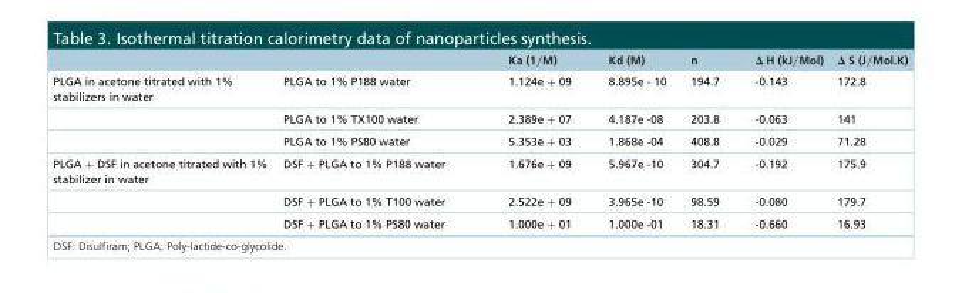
<table><thead><tr><td></td><td></td><td>Ka (1/M)</td><td>Kd (M)</td><td>n</td><td>Δ H (kJ/Mol)</td><td>Δ S (J/Mol.K)</td></tr></thead><tbody><tr><td rowspan="3">PLGA in acetone titrated with 1% stabilizers in water</td><td>PLGA to 1% P188 water</td><td>1.124e + 09</td><td>8.895e - 10</td><td>194.7</td><td>-0.143</td><td>172.8</td></tr><tr><td>PLGA to 1% TX100 water</td><td>2.389e + 07</td><td>4.187e -08</td><td>203.8</td><td>-0.063</td><td>141</td></tr><tr><td>PLGA to 1% PS80 water</td><td>5.353e + 03</td><td>1.868e -04</td><td>408.8</td><td>-0.029</td><td>71.28</td></tr><tr><td rowspan="3">PLGA + DSF in acetone titrated with 1% stabilizer in water</td><td>DSF + PLGA to 1% P188 water</td><td>1.676e + 09</td><td>5.967e -10</td><td>304.7</td><td>-0.192</td><td>175.9</td></tr><tr><td>DSF + PLGA to 1% T100 water</td><td>2.522e + 09</td><td>3.965e -10</td><td>98.59</td><td>-0.080</td><td>179.7</td></tr><tr><td>DSF + PLGA to 1% PS80 water</td><td>1.000e + 01</td><td>1.000e -01</td><td>18.31</td><td>-0.660</td><td>16.93</td></tr></tbody></table>